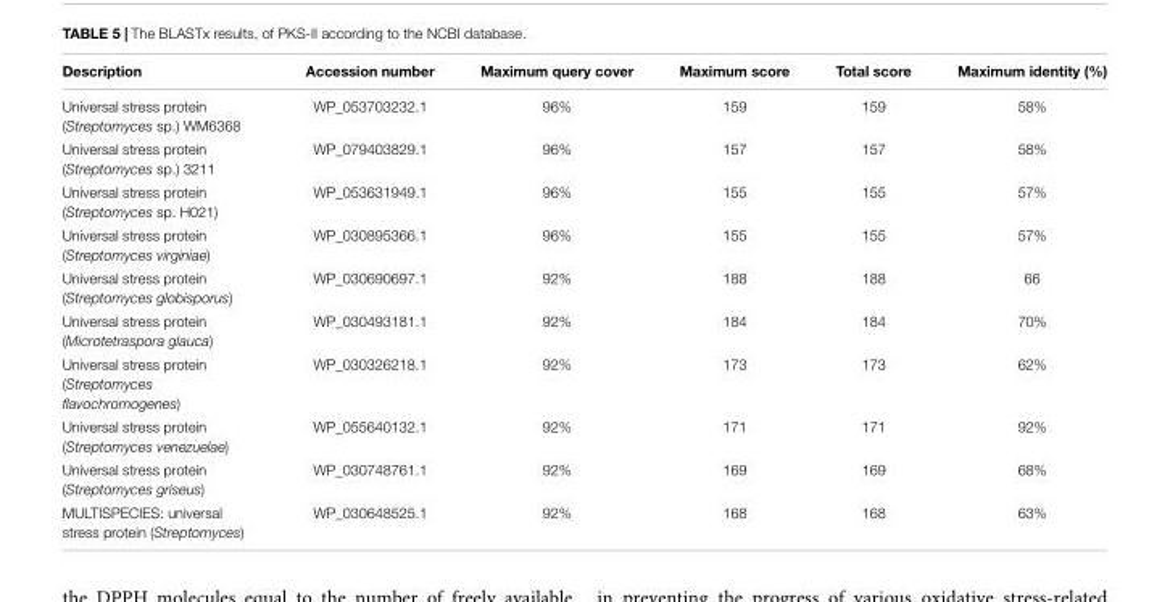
<table><thead><tr><td>Description</td><td>Accession number</td><td>Maximum query cover</td><td>Maximum score</td><td>Total score</td><td>Maximum identity (%)</td></tr></thead><tbody><tr><td>Universal stress protein (Streptomyces sp.) WM6368</td><td>WP_053703232.1</td><td>96%</td><td>159</td><td>159</td><td>58%</td></tr><tr><td>Universal stress protein (Streptomyces sp.) 3211</td><td>WP_079403829.1</td><td>96%</td><td>157</td><td>157</td><td>58%</td></tr><tr><td>Universal stress protein (Streptomyces sp. H021)</td><td>WP_053631949.1</td><td>96%</td><td>155</td><td>155</td><td>57%</td></tr><tr><td>Universal stress protein (Streptomyces virginiae)</td><td>WP_030895366.1</td><td>96%</td><td>155</td><td>155</td><td>57%</td></tr><tr><td>Universal stress protein (Streptomyces globisporus)</td><td>WP_030690697.1</td><td>92%</td><td>188</td><td>188</td><td>66</td></tr><tr><td>Universal stress protein (Microtetraspora glauca)</td><td>WP_030493181.1</td><td>92%</td><td>184</td><td>184</td><td>70%</td></tr><tr><td>Universal stress protein (Streptomyces flavochromogenes)</td><td>WP_030326218.1</td><td>92%</td><td>173</td><td>173</td><td>62%</td></tr><tr><td>Universal stress protein (Streptomyces venezuelae)</td><td>WP_055640132.1</td><td>92%</td><td>171</td><td>171</td><td>92%</td></tr><tr><td>Universal stress protein (Streptomyces griseus)</td><td>WP_030748761.1</td><td>92%</td><td>169</td><td>169</td><td>68%</td></tr><tr><td>MULTISPECIES: universal stress protein (Streptomyces)</td><td>WP_030648525.1</td><td>92%</td><td>168</td><td>168</td><td>63%</td></tr></tbody></table>